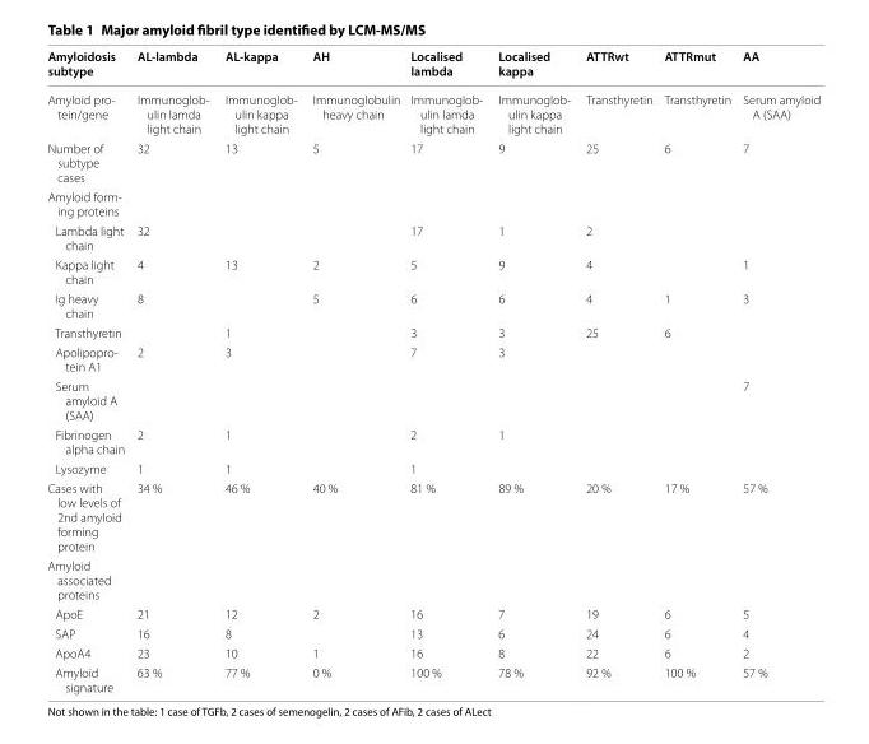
<table><thead><tr><td>Amyloidosis subtype</td><td>AL‑lambda</td><td>AL‑kappa</td><td>AH</td><td>Localised lambda</td><td>Localised kappa</td><td>ATTRwt</td><td>ATTRmut</td><td>AA</td></tr></thead><tbody><tr><td>Amyloid pro‑ tein/gene</td><td>Immunoglob‑ ulin lamda light chain</td><td>Immunoglob‑ ulin kappa light chain</td><td>Immunoglobulin heavy chain</td><td>Immunoglob‑ ulin lamda light chain</td><td>Immunoglob‑ ulin kappa light chain</td><td>Transthyretin</td><td>Transthyretin</td><td>Serum amyloid A (SAA)</td></tr><tr><td>Number of subtype cases</td><td>32</td><td>13</td><td>5</td><td>17</td><td>9</td><td>25</td><td>6</td><td>7</td></tr><tr><td colspan="9">Amyloid form‑ ing proteins</td></tr><tr><td>Lambda light chain</td><td>32</td><td></td><td></td><td>17</td><td>1</td><td>2</td><td></td><td></td></tr><tr><td>Kappa light chain</td><td>4</td><td>13</td><td>2</td><td>5</td><td>9</td><td>4</td><td></td><td>1</td></tr><tr><td>Ig heavy chain</td><td>8</td><td></td><td>5</td><td>6</td><td>6</td><td>4</td><td>1</td><td>3</td></tr><tr><td>Transthyretin</td><td></td><td>1</td><td></td><td>3</td><td>3</td><td>25</td><td>6</td><td></td></tr><tr><td>Apolipopro‑ tein A1</td><td>2</td><td>3</td><td></td><td>7</td><td>3</td><td></td><td></td><td></td></tr><tr><td>Serum amyloid A (SAA)</td><td></td><td></td><td></td><td></td><td></td><td></td><td></td><td>7</td></tr><tr><td>Fibrinogen alpha chain</td><td>2</td><td>1</td><td></td><td>2</td><td>1</td><td></td><td></td><td></td></tr><tr><td>Lysozyme</td><td>1</td><td>1</td><td></td><td>1</td><td></td><td></td><td></td><td></td></tr><tr><td>Cases with low levels of 2nd amyloid forming protein</td><td>34 %</td><td>46 %</td><td>40 %</td><td>81 %</td><td>89 %</td><td>20 %</td><td>17 %</td><td>57 %</td></tr><tr><td colspan="9">Amyloid associated proteins</td></tr><tr><td>ApoE</td><td>21</td><td>12</td><td>2</td><td>16</td><td>7</td><td>19</td><td>6</td><td>5</td></tr><tr><td>SAP</td><td>16</td><td>8</td><td></td><td>13</td><td>6</td><td>24</td><td>6</td><td>4</td></tr><tr><td>ApoA4</td><td>23</td><td>10</td><td>1</td><td>16</td><td>8</td><td>22</td><td>6</td><td>2</td></tr><tr><td>Amyloid signature</td><td>63 %</td><td>77 %</td><td>0 %</td><td>100 %</td><td>78 %</td><td>92 %</td><td>100 %</td><td>57 %</td></tr></tbody></table>